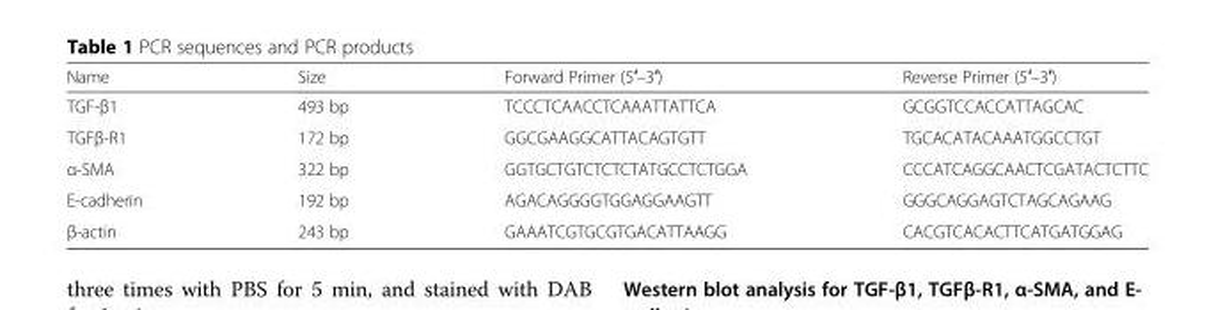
<table><thead><tr><td>Name</td><td>Size</td><td>Forward Primer (5′–3′)</td><td>Reverse Primer (5′–3′)</td></tr></thead><tbody><tr><td>TGF-β1</td><td>493 bp</td><td>TCCCTCAACCTCAAATTATTCA</td><td>GCGGTCCACCATTAGCAC</td></tr><tr><td>TGFβ-R1</td><td>172 bp</td><td>GGCGAAGGCATTACAGTGTT</td><td>TGCACATACAAATGGCCTGT</td></tr><tr><td>α-SMA</td><td>322 bp</td><td>GGTGCTGTCTCTCTATGCCTCTGGA</td><td>CCCATCAGGCAACTCGATACTCTTC</td></tr><tr><td>E-cadherin</td><td>192 bp</td><td>AGACAGGGGTGGAGGAAGTT</td><td>GGGCAGGAGTCTAGCAGAAG</td></tr><tr><td>β-actin</td><td>243 bp</td><td>GAAATCGTGCGTGACATTAAGG</td><td>CACGTCACACTTCATGATGGAG</td></tr></tbody></table>